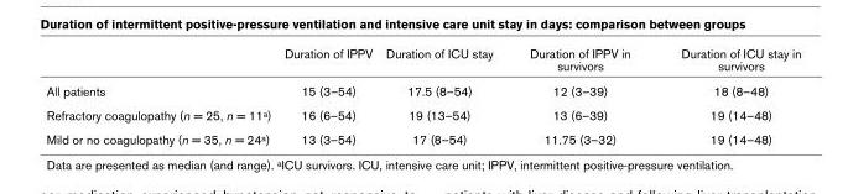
<table><thead><tr><td></td><td>Duration of IPPV</td><td>Duration of ICU stay</td><td>Duration of IPPV in survivors</td><td>Duration of ICU stay in survivors</td></tr></thead><tbody><tr><td>All patients</td><td>15 (3–54)</td><td>17.5 (8–54)</td><td>12 (3–39)</td><td>18 (8–48)</td></tr><tr><td>Refractory coagulopathy (n = 25, n = 11<sup>a</sup>)</td><td>16 (6–54)</td><td>19 (13–54)</td><td>13 (6–39)</td><td>19 (14–48)</td></tr><tr><td>Mild or no coagulopathy (n = 35, n = 24<sup>a</sup>)</td><td>13 (3–54)</td><td>17 (8–54)</td><td>11.75 (3–32)</td><td>19 (14–48)</td></tr></tbody></table>